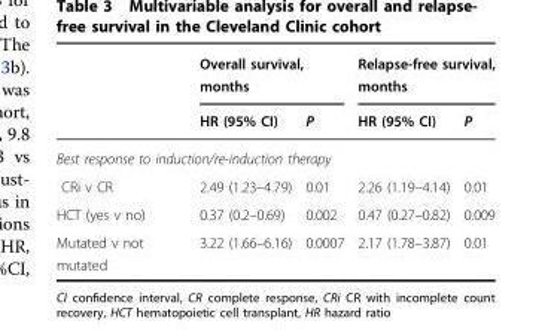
<table><thead><tr><td rowspan="2"></td><td colspan="2">Overall survival, months</td><td colspan="2">Relapse-free survival, months</td></tr><tr><td>HR (95% CI)</td><td>P</td><td>HR (95% CI)</td><td>P</td></tr></thead><tbody><tr><td colspan="5">Best response to induction/re-induction therapy</td></tr><tr><td>CRi v CR</td><td>2.49 (1.23–4.79)</td><td>0.01</td><td>2.26 (1.19–4.14)</td><td>0.01</td></tr><tr><td>HCT (yes v no)</td><td>0.37 (0.2–0.69)</td><td>0.002</td><td>0.47 (0.27–0.82)</td><td>0.009</td></tr><tr><td>Mutated v not mutated</td><td>3.22 (1.66–6.16)</td><td>0.0007</td><td>2.17 (1.78–3.87)</td><td>0.01</td></tr></tbody></table>